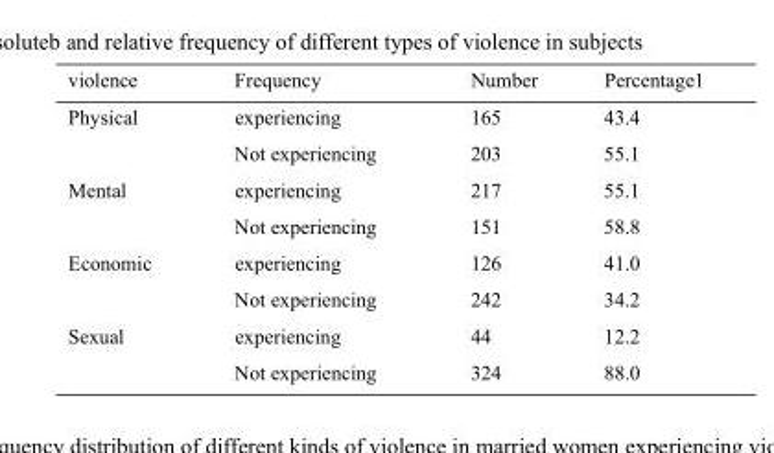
<table><thead><tr><td>violence</td><td>Frequency</td><td>Number</td><td>Percentage1</td></tr></thead><tbody><tr><td rowspan="2">Physical</td><td>experiencing</td><td>165</td><td>43.4</td></tr><tr><td>Not experiencing</td><td>203</td><td>55.1</td></tr><tr><td rowspan="2">Mental</td><td>experiencing</td><td>217</td><td>55.1</td></tr><tr><td>Not experiencing</td><td>151</td><td>58.8</td></tr><tr><td rowspan="2">Economic</td><td>experiencing</td><td>126</td><td>41.0</td></tr><tr><td>Not experiencing</td><td>242</td><td>34.2</td></tr><tr><td rowspan="2">Sexual</td><td>experiencing</td><td>44</td><td>12.2</td></tr><tr><td>Not experiencing</td><td>324</td><td>88.0</td></tr></tbody></table>